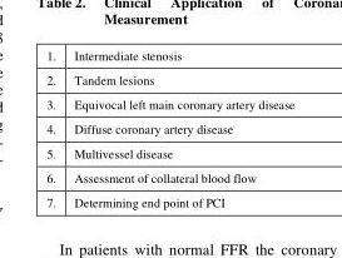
<table><tbody><tr><td>1.</td><td>Intermediate stenosis</td></tr><tr><td>2.</td><td>Tandem lesions</td></tr><tr><td>3.</td><td>Equivocal left main coronary artery disease</td></tr><tr><td>4.</td><td>Diffuse coronary artery disease</td></tr><tr><td>5.</td><td>Multivessel disease</td></tr><tr><td>6.</td><td>Assessment of collateral blood flow</td></tr><tr><td>7.</td><td>Determining end point of PCI</td></tr></tbody></table>